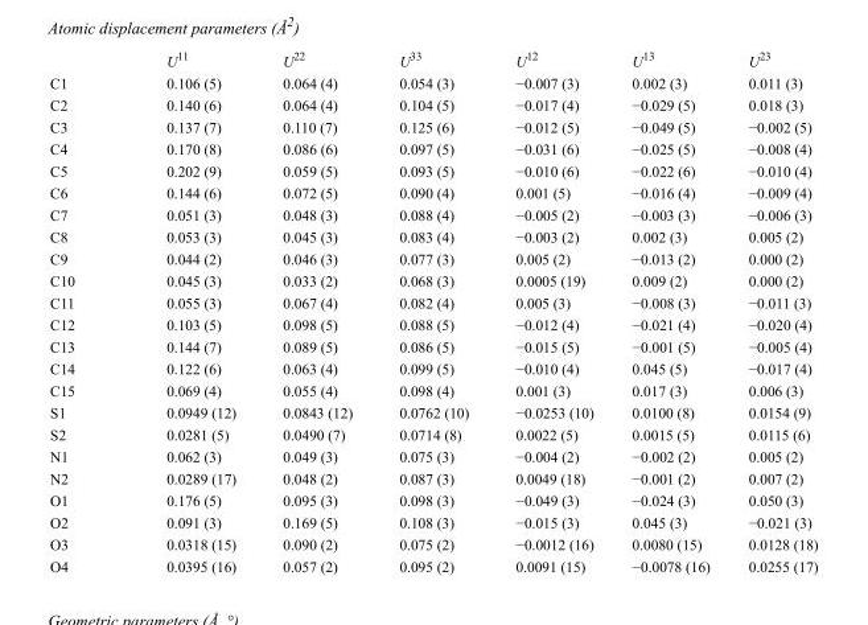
<table><thead><tr><td></td><td>U<sup>11</sup></td><td>U<sup>22</sup></td><td>U<sup>33</sup></td><td>U<sup>12</sup></td><td>U<sup>13</sup></td><td>U<sup>23</sup></td></tr></thead><tbody><tr><td>C1</td><td>0.106 (5)</td><td>0.064 (4)</td><td>0.054 (3)</td><td>−0.007 (3)</td><td>0.002 (3)</td><td>0.011 (3)</td></tr><tr><td>C2</td><td>0.140 (6)</td><td>0.064 (4)</td><td>0.104 (5)</td><td>−0.017 (4)</td><td>−0.029 (5)</td><td>0.018 (3)</td></tr><tr><td>C3</td><td>0.137 (7)</td><td>0.110 (7)</td><td>0.125 (6)</td><td>−0.012 (5)</td><td>−0.049 (5)</td><td>−0.002 (5)</td></tr><tr><td>C4</td><td>0.170 (8)</td><td>0.086 (6)</td><td>0.097 (5)</td><td>−0.031 (6)</td><td>−0.025 (5)</td><td>−0.008 (4)</td></tr><tr><td>C5</td><td>0.202 (9)</td><td>0.059 (5)</td><td>0.093 (5)</td><td>−0.010 (6)</td><td>−0.022 (6)</td><td>−0.010 (4)</td></tr><tr><td>C6</td><td>0.144 (6)</td><td>0.072 (5)</td><td>0.090 (4)</td><td>0.001 (5)</td><td>−0.016 (4)</td><td>−0.009 (4)</td></tr><tr><td>C7</td><td>0.051 (3)</td><td>0.048 (3)</td><td>0.088 (4)</td><td>−0.005 (2)</td><td>−0.003 (3)</td><td>−0.006 (3)</td></tr><tr><td>C8</td><td>0.053 (3)</td><td>0.045 (3)</td><td>0.083 (4)</td><td>−0.003 (2)</td><td>0.002 (3)</td><td>0.005 (2)</td></tr><tr><td>C9</td><td>0.044 (2)</td><td>0.046 (3)</td><td>0.077 (3)</td><td>0.005 (2)</td><td>−0.013 (2)</td><td>0.000 (2)</td></tr><tr><td>C10</td><td>0.045 (3)</td><td>0.033 (2)</td><td>0.068 (3)</td><td>0.0005 (19)</td><td>0.009 (2)</td><td>0.000 (2)</td></tr><tr><td>C11</td><td>0.055 (3)</td><td>0.067 (4)</td><td>0.082 (4)</td><td>0.005 (3)</td><td>−0.008 (3)</td><td>−0.011 (3)</td></tr><tr><td>C12</td><td>0.103 (5)</td><td>0.098 (5)</td><td>0.088 (5)</td><td>−0.012 (4)</td><td>−0.021 (4)</td><td>−0.020 (4)</td></tr><tr><td>C13</td><td>0.144 (7)</td><td>0.089 (5)</td><td>0.086 (5)</td><td>−0.015 (5)</td><td>−0.001 (5)</td><td>−0.005 (4)</td></tr><tr><td>C14</td><td>0.122 (6)</td><td>0.063 (4)</td><td>0.099 (5)</td><td>−0.010 (4)</td><td>0.045 (5)</td><td>−0.017 (4)</td></tr><tr><td>C15</td><td>0.069 (4)</td><td>0.055 (4)</td><td>0.098 (4)</td><td>0.001 (3)</td><td>0.017 (3)</td><td>0.006 (3)</td></tr><tr><td>S1</td><td>0.0949 (12)</td><td>0.0843 (12)</td><td>0.0762 (10)</td><td>−0.0253 (10)</td><td>0.0100 (8)</td><td>0.0154 (9)</td></tr><tr><td>S2</td><td>0.0281 (5)</td><td>0.0490 (7)</td><td>0.0714 (8)</td><td>0.0022 (5)</td><td>0.0015 (5)</td><td>0.0115 (6)</td></tr><tr><td>N1</td><td>0.062 (3)</td><td>0.049 (3)</td><td>0.075 (3)</td><td>−0.004 (2)</td><td>−0.002 (2)</td><td>0.005 (2)</td></tr><tr><td>N2</td><td>0.0289 (17)</td><td>0.048 (2)</td><td>0.087 (3)</td><td>0.0049 (18)</td><td>−0.001 (2)</td><td>0.007 (2)</td></tr><tr><td>O1</td><td>0.176 (5)</td><td>0.095 (3)</td><td>0.098 (3)</td><td>−0.049 (3)</td><td>−0.024 (3)</td><td>0.050 (3)</td></tr><tr><td>O2</td><td>0.091 (3)</td><td>0.169 (5)</td><td>0.108 (3)</td><td>−0.015 (3)</td><td>0.045 (3)</td><td>−0.021 (3)</td></tr><tr><td>O3</td><td>0.0318 (15)</td><td>0.090 (2)</td><td>0.075 (2)</td><td>−0.0012 (16)</td><td>0.0080 (15)</td><td>0.0128 (18)</td></tr><tr><td>O4</td><td>0.0395 (16)</td><td>0.057 (2)</td><td>0.095 (2)</td><td>0.0091 (15)</td><td>−0.0078 (16)</td><td>0.0255 (17)</td></tr></tbody></table>